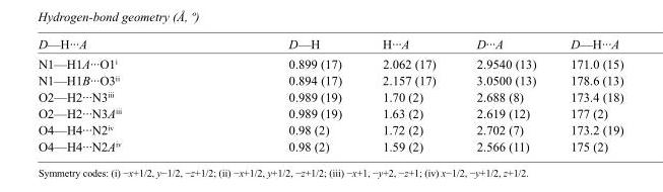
<table><tbody><tr><td>D—H···A</td><td>D—H</td><td>H···A</td><td>D···A</td><td>D—H···A</td></tr><tr><td>N1—H1A···O1<sup>i</sup></td><td>0.899 (17)</td><td>2.062 (17)</td><td>2.9540 (13)</td><td>171.0 (15)</td></tr><tr><td>N1—H1B···O3<sup>ii</sup></td><td>0.894 (17)</td><td>2.157 (17)</td><td>3.0500 (13)</td><td>178.6 (13)</td></tr><tr><td>O2—H2···N3<sup>iii</sup></td><td>0.989 (19)</td><td>1.70 (2)</td><td>2.688 (8)</td><td>173.4 (18)</td></tr><tr><td>O2—H2···N3A<sup>iii</sup></td><td>0.989 (19)</td><td>1.63 (2)</td><td>2.619 (12)</td><td>177 (2)</td></tr><tr><td>O4—H4···N2<sup>iv</sup></td><td>0.98 (2)</td><td>1.72 (2)</td><td>2.702 (7)</td><td>173.2 (19)</td></tr><tr><td>O4—H4···N2A<sup>iv</sup></td><td>0.98 (2)</td><td>1.59 (2)</td><td>2.566 (11)</td><td>175 (2)</td></tr></tbody></table>